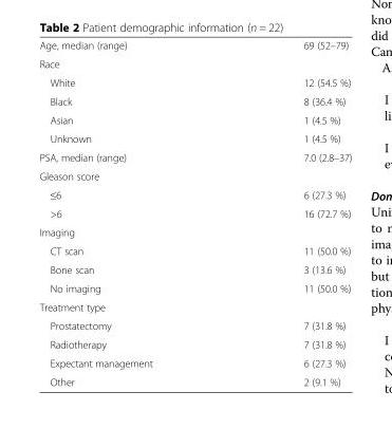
<table><tbody><tr><td>Age, median (range)</td><td>69 (52–79)</td></tr><tr><td colspan="2">Race</td></tr><tr><td>White</td><td>12 (54.5 %)</td></tr><tr><td>Black</td><td>8 (36.4 %)</td></tr><tr><td>Asian</td><td>1 (4.5 %)</td></tr><tr><td>Unknown</td><td>1 (4.5 %)</td></tr><tr><td>PSA, median (range)</td><td>7.0 (2.8–37)</td></tr><tr><td colspan="2">Gleason score</td></tr><tr><td>≤6</td><td>6 (27.3 %)</td></tr><tr><td>&gt;6</td><td>16 (72.7 %)</td></tr><tr><td colspan="2">Imaging</td></tr><tr><td>CT scan</td><td>11 (50.0 %)</td></tr><tr><td>Bone scan</td><td>3 (13.6 %)</td></tr><tr><td>No imaging</td><td>11 (50.0 %)</td></tr><tr><td colspan="2">Treatment type</td></tr><tr><td>Prostatectomy</td><td>7 (31.8 %)</td></tr><tr><td>Radiotherapy</td><td>7 (31.8 %)</td></tr><tr><td>Expectant management</td><td>6 (27.3 %)</td></tr><tr><td>Other</td><td>2 (9.1 %)</td></tr></tbody></table>